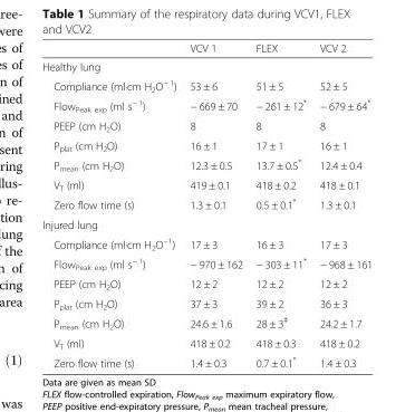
<table><thead><tr><td></td><td>VCV 1</td><td>FLEX</td><td>VCV 2</td></tr></thead><tbody><tr><td colspan="4">Healthy lung</td></tr><tr><td>Compliance (ml·cm H<sub>2</sub>O<sup>− 1</sup>)</td><td>53 ± 6</td><td>51 ± 5</td><td>52 ± 5</td></tr><tr><td>Flow<sub>Peak exp</sub> (ml s<sup>− 1</sup>)</td><td>− 669 ± 70</td><td>− 261 ± 12*</td><td>− 679 ± 64*</td></tr><tr><td>PEEP (cm H<sub>2</sub>O)</td><td>8</td><td>8</td><td>8</td></tr><tr><td>P<sub>plat</sub> (cm H<sub>2</sub>O)</td><td>16 ± 1</td><td>17 ± 1</td><td>16 ± 1</td></tr><tr><td>P<sub>mean</sub> (cm H<sub>2</sub>O)</td><td>12.3 ± 0.5</td><td>13.7 ± 0.5*</td><td>12.4 ± 0.4</td></tr><tr><td>V<sub>T</sub> (ml)</td><td>419 ± 0.1</td><td>418 ± 0.2</td><td>418 ± 0.1</td></tr><tr><td>Zero flow time (s)</td><td>1.3 ± 0.1</td><td>0.5 ± 0.1*</td><td>1.3 ± 0.1</td></tr><tr><td colspan="4">Injured lung</td></tr><tr><td>Compliance (ml·cm H<sub>2</sub>O<sup>−1</sup>)</td><td>17 ± 3</td><td>16 ± 3</td><td>17 ± 3</td></tr><tr><td>Flow<sub>Peak exp</sub> (ml s<sup>− 1</sup>)</td><td>− 970 ± 162</td><td>− 303 ± 11*</td><td>− 968 ± 161</td></tr><tr><td>PEEP (cm H<sub>2</sub>O)</td><td>12 ± 2</td><td>12 ± 2</td><td>12 ± 2</td></tr><tr><td>P<sub>plat</sub> (cm H<sub>2</sub>O)</td><td>37 ± 3</td><td>39 ± 2</td><td>36 ± 3</td></tr><tr><td>P<sub>mean</sub> (cm H<sub>2</sub>O)</td><td>24.6 ± 1.6</td><td>28 ± 3<sup>ǂ</sup></td><td>24.2 ± 1.7</td></tr><tr><td>V<sub>T</sub> (ml)</td><td>418 ± 0.2</td><td>418 ± 0.3</td><td>418 ± 0.2</td></tr><tr><td>Zero flow time (s)</td><td>1.4 ± 0.3</td><td>0.7 ± 0.1*</td><td>1.4 ± 0.3</td></tr></tbody></table>